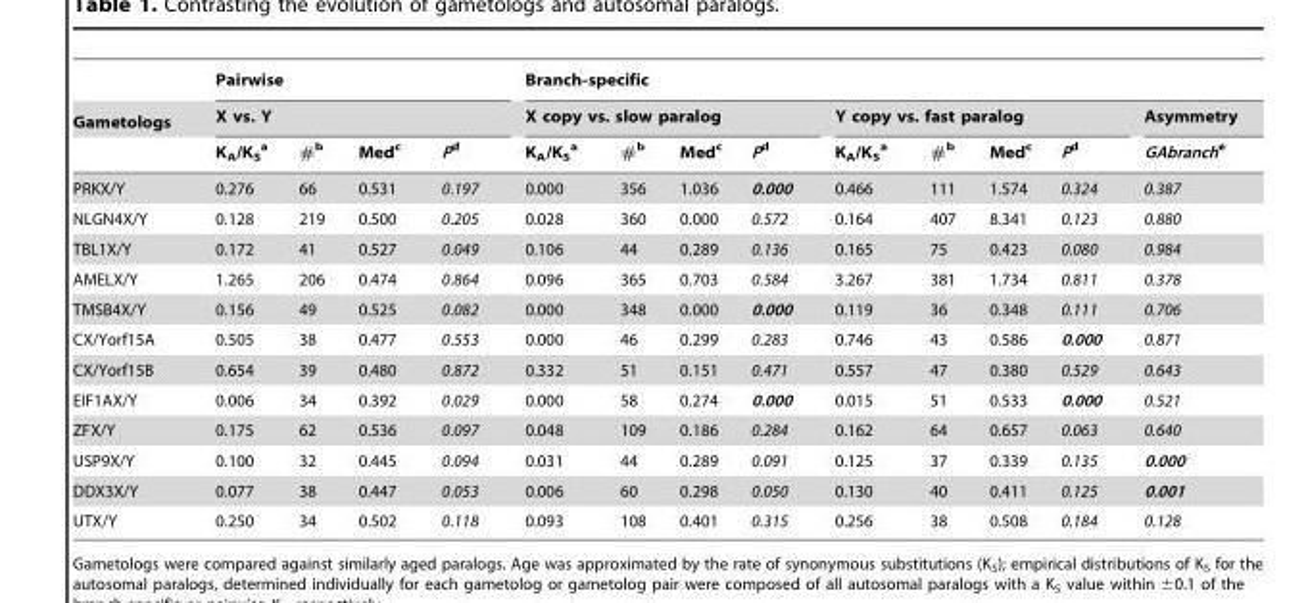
<table><thead><tr><td rowspan="3">Gametologs</td><td rowspan="2" colspan="4">Pairwise X vs. Y</td><td colspan="9">Branch-specific</td></tr><tr><td colspan="4">X copy vs. slow paralog</td><td colspan="4">Y copy vs. fast paralog</td><td rowspan="2">Asymmetry GAbranche</td></tr><tr><td>K<sub>A</sub>/K<sub>S</sub> a</td><td>#<sup>b</sup></td><td>Med<sup>c</sup></td><td>Pd</td><td>K<sub>A</sub>/K<sub>S</sub> a</td><td>#<sup>b</sup></td><td>Med<sup>c</sup></td><td>Pd</td><td>K<sub>A</sub>/K<sub>S</sub> a</td><td>#<sup>b</sup></td><td>Med<sup>c</sup></td><td>Pd</td></tr></thead><tbody><tr><td>PRKX/Y</td><td>0.276</td><td>66</td><td>0.531</td><td>0.197</td><td>0.000</td><td>356</td><td>1.036</td><td>0.000</td><td>0.466</td><td>111</td><td>1.574</td><td>0.324</td><td>0.387</td></tr><tr><td>NLGN4X/Y</td><td>0.128</td><td>219</td><td>0.500</td><td>0.205</td><td>0.028</td><td>360</td><td>0.000</td><td>0.572</td><td>0.164</td><td>407</td><td>8.341</td><td>0.123</td><td>0.880</td></tr><tr><td>TBL1X/Y</td><td>0.172</td><td>41</td><td>0.527</td><td>0.049</td><td>0.106</td><td>44</td><td>0.289</td><td>0.136</td><td>0.165</td><td>75</td><td>0.423</td><td>0.080</td><td>0.984</td></tr><tr><td>AMELX/Y</td><td>1.265</td><td>206</td><td>0.474</td><td>0.864</td><td>0.096</td><td>365</td><td>0.703</td><td>0.584</td><td>3.267</td><td>381</td><td>1.734</td><td>0.811</td><td>0.378</td></tr><tr><td>TMSB4X/Y</td><td>0.156</td><td>49</td><td>0.525</td><td>0.082</td><td>0.000</td><td>348</td><td>0.000</td><td>0.000</td><td>0.119</td><td>36</td><td>0.348</td><td>0.111</td><td>0.706</td></tr><tr><td>CX/Yorf15A</td><td>0.505</td><td>38</td><td>0.477</td><td>0.553</td><td>0.000</td><td>46</td><td>0.299</td><td>0.283</td><td>0.746</td><td>43</td><td>0.586</td><td>0.000</td><td>0.871</td></tr><tr><td>CX/Yorf15B</td><td>0.654</td><td>39</td><td>0.480</td><td>0.872</td><td>0.332</td><td>51</td><td>0.151</td><td>0.471</td><td>0.557</td><td>47</td><td>0.380</td><td>0.529</td><td>0.643</td></tr><tr><td>EIF1AX/Y</td><td>0.006</td><td>34</td><td>0.392</td><td>0.029</td><td>0.000</td><td>58</td><td>0.274</td><td>0.000</td><td>0.015</td><td>51</td><td>0.533</td><td>0.000</td><td>0.521</td></tr><tr><td>ZFX/Y</td><td>0.175</td><td>62</td><td>0.536</td><td>0.097</td><td>0.048</td><td>109</td><td>0.186</td><td>0.284</td><td>0.162</td><td>64</td><td>0.657</td><td>0.063</td><td>0.640</td></tr><tr><td>USP9X/Y</td><td>0.100</td><td>32</td><td>0.445</td><td>0.094</td><td>0.031</td><td>44</td><td>0.289</td><td>0.091</td><td>0.125</td><td>37</td><td>0.339</td><td>0.135</td><td>0.000</td></tr><tr><td>DDX3X/Y</td><td>0.077</td><td>38</td><td>0.447</td><td>0.053</td><td>0.006</td><td>60</td><td>0.298</td><td>0.050</td><td>0.130</td><td>40</td><td>0.411</td><td>0.125</td><td>0.001</td></tr><tr><td>UTX/Y</td><td>0.250</td><td>34</td><td>0.502</td><td>0.118</td><td>0.093</td><td>108</td><td>0.401</td><td>0.315</td><td>0.256</td><td>38</td><td>0.508</td><td>0.184</td><td>0.128</td></tr></tbody></table>